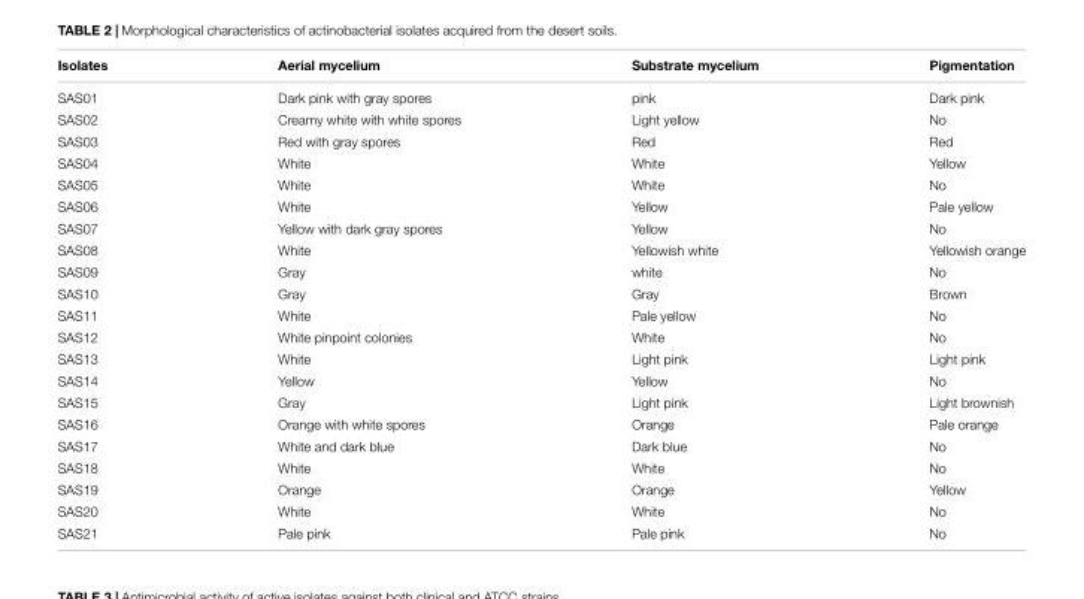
<table><thead><tr><td>Isolates</td><td>Aerial mycelium</td><td>Substrate mycelium</td><td>Pigmentation</td></tr></thead><tbody><tr><td>SAS01</td><td>Dark pink with gray spores</td><td>pink</td><td>Dark pink</td></tr><tr><td>SAS02</td><td>Creamy white with white spores</td><td>Light yellow</td><td>No</td></tr><tr><td>SAS03</td><td>Red with gray spores</td><td>Red</td><td>Red</td></tr><tr><td>SAS04</td><td>White</td><td>White</td><td>Yellow</td></tr><tr><td>SAS05</td><td>White</td><td>White</td><td>No</td></tr><tr><td>SAS06</td><td>White</td><td>Yellow</td><td>Pale yellow</td></tr><tr><td>SAS07</td><td>Yellow with dark gray spores</td><td>Yellow</td><td>No</td></tr><tr><td>SAS08</td><td>White</td><td>Yellowish white</td><td>Yellowish orange</td></tr><tr><td>SAS09</td><td>Gray</td><td>white</td><td>No</td></tr><tr><td>SAS10</td><td>Gray</td><td>Gray</td><td>Brown</td></tr><tr><td>SAS11</td><td>White</td><td>Pale yellow</td><td>No</td></tr><tr><td>SAS12</td><td>White pinpoint colonies</td><td>White</td><td>No</td></tr><tr><td>SAS13</td><td>White</td><td>Light pink</td><td>Light pink</td></tr><tr><td>SAS14</td><td>Yellow</td><td>Yellow</td><td>No</td></tr><tr><td>SAS15</td><td>Gray</td><td>Light pink</td><td>Light brownish</td></tr><tr><td>SAS16</td><td>Orange with white spores</td><td>Orange</td><td>Pale orange</td></tr><tr><td>SAS17</td><td>White and dark blue</td><td>Dark blue</td><td>No</td></tr><tr><td>SAS18</td><td>White</td><td>White</td><td>No</td></tr><tr><td>SAS19</td><td>Orange</td><td>Orange</td><td>Yellow</td></tr><tr><td>SAS20</td><td>White</td><td>White</td><td>No</td></tr><tr><td>SAS21</td><td>Pale pink</td><td>Pale pink</td><td>No</td></tr></tbody></table>